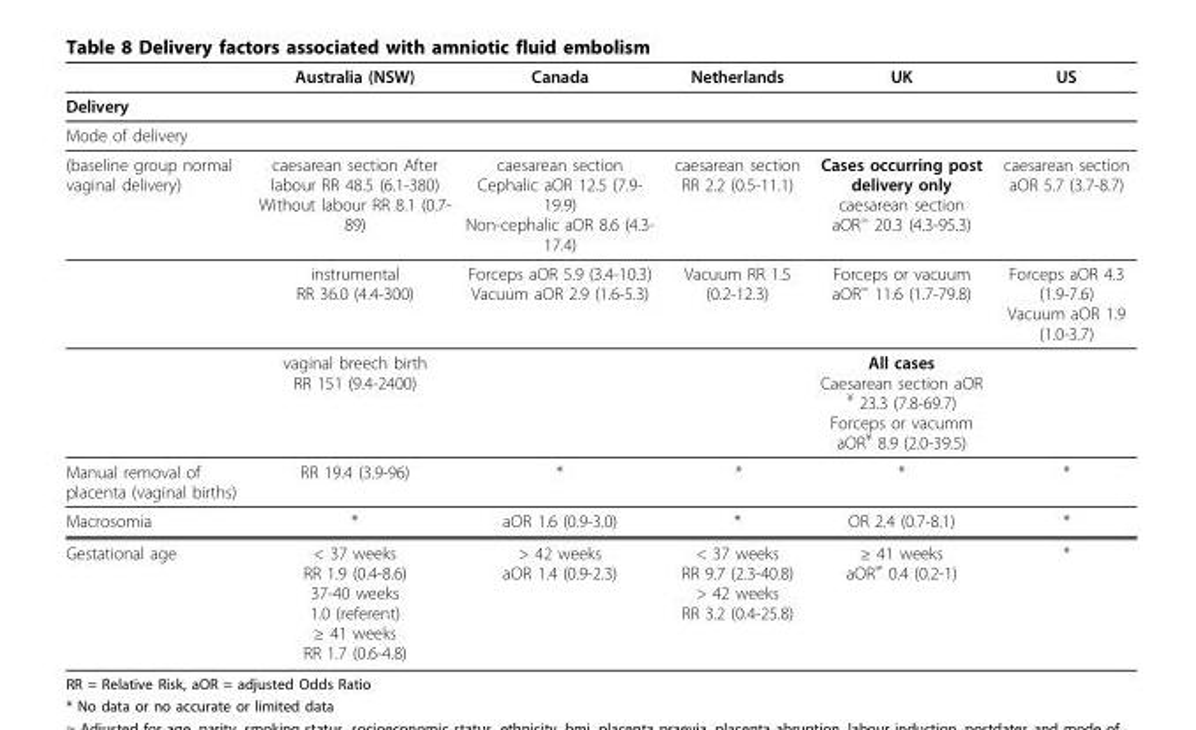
<table><thead><tr><td></td><td>Australia (NSW)</td><td>Canada</td><td>Netherlands</td><td>UK</td><td>US</td></tr></thead><tbody><tr><td colspan="6">Delivery</td></tr><tr><td colspan="6">Mode of delivery</td></tr><tr><td rowspan="3">(baseline group normal vaginal delivery)</td><td>caesarean section After labour RR 48.5 (6.1-380) Without labour RR 8.1 (0.7- 89)</td><td>caesarean section Cephalic aOR 12.5 (7.9- 19.9) Non-cephalic aOR 8.6 (4.3- 17.4)</td><td>caesarean section RR 2.2 (0.5-11.1)</td><td>Cases occurring post delivery only caesarean section aOR≈ 20.3 (4.3-95.3)</td><td>caesarean section aOR 5.7 (3.7-8.7)</td></tr><tr><td>instrumental RR 36.0 (4.4-300)</td><td>Forceps aOR 5.9 (3.4-10.3) Vacuum aOR 2.9 (1.6-5.3)</td><td>Vacuum RR 1.5 (0.2-12.3)</td><td>Forceps or vacuum aOR≈ 11.6 (1.7-79.8)</td><td>Forceps aOR 4.3 (1.9-7.6) Vacuum aOR 1.9 (1.0-3.7)</td></tr><tr><td>vaginal breech birth RR 151 (9.4-2400)</td><td></td><td></td><td>All cases Caesarean section aOR ¥ 23.3 (7.8-69.7) Forceps or vacumm aOR¥ 8.9 (2.0-39.5)</td><td></td></tr><tr><td>Manual removal of placenta (vaginal births)</td><td>RR 19.4 (3.9-96)</td><td>*</td><td>*</td><td>*</td><td>*</td></tr><tr><td>Macrosomia</td><td>*</td><td>aOR 1.6 (0.9-3.0)</td><td>*</td><td>OR 2.4 (0.7-8.1)</td><td>*</td></tr><tr><td>Gestational age</td><td>&lt; 37 weeks RR 1.9 (0.4-8.6) 37-40 weeks 1.0 (referent) ≥ 41 weeks RR 1.7 (0.6-4.8)</td><td>&gt; 42 weeks aOR 1.4 (0.9-2.3)</td><td>&lt; 37 weeks RR 9.7 (2.3-40.8) &gt; 42 weeks RR 3.2 (0.4-25.8)</td><td>≥ 41 weeks aOR≠ 0.4 (0.2-1)</td><td>*</td></tr></tbody></table>